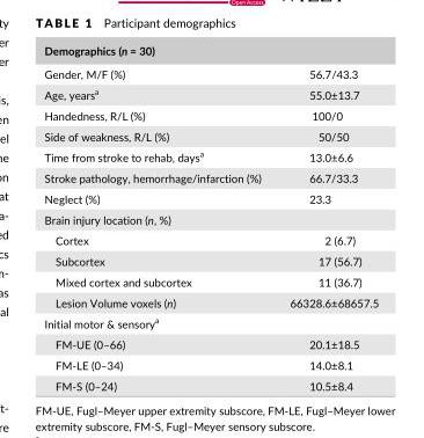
<table><thead><tr><td>Demographics (n = 30)</td><td></td></tr></thead><tbody><tr><td>Gender, M/F (%)</td><td>56.7/43.3</td></tr><tr><td>Age, years<sup>a</sup></td><td>55.0±13.7</td></tr><tr><td>Handedness, R/L (%)</td><td>100/0</td></tr><tr><td>Side of weakness, R/L (%)</td><td>50/50</td></tr><tr><td>Time from stroke to rehab, days<sup>a</sup></td><td>13.0±6.6</td></tr><tr><td>Stroke pathology, hemorrhage/infarction (%)</td><td>66.7/33.3</td></tr><tr><td>Neglect (%)</td><td>23.3</td></tr><tr><td colspan="2">Brain injury location (n, %)</td></tr><tr><td>Cortex</td><td>2 (6.7)</td></tr><tr><td>Subcortex</td><td>17 (56.7)</td></tr><tr><td>Mixed cortex and subcortex</td><td>11 (36.7)</td></tr><tr><td>Lesion Volume voxels (n)</td><td>66328.6±68657.5</td></tr><tr><td colspan="2">Initial motor &amp; sensory<sup>a</sup></td></tr><tr><td>FM- UE (0–66)</td><td>20.1±18.5</td></tr><tr><td>FM- LE (0–34)</td><td>14.0±8.1</td></tr><tr><td>FM- S (0–24)</td><td>10.5±8.4</td></tr></tbody></table>